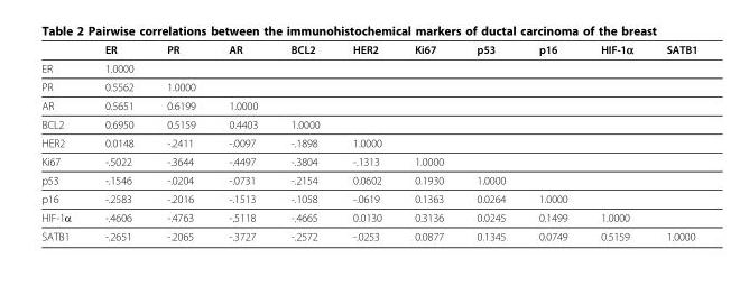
<table><thead><tr><td></td><td>ER</td><td>PR</td><td>AR</td><td>BCL2</td><td>HER2</td><td>Ki67</td><td>p53</td><td>p16</td><td>HIF-1α</td><td>SATB1</td></tr></thead><tbody><tr><td>ER</td><td>1.0000</td><td></td><td></td><td></td><td></td><td></td><td></td><td></td><td></td><td></td></tr><tr><td>PR</td><td>0.5562</td><td>1.0000</td><td></td><td></td><td></td><td></td><td></td><td></td><td></td><td></td></tr><tr><td>AR</td><td>0.5651</td><td>0.6199</td><td>1.0000</td><td></td><td></td><td></td><td></td><td></td><td></td><td></td></tr><tr><td>BCL2</td><td>0.6950</td><td>0.5159</td><td>0.4403</td><td>1.0000</td><td></td><td></td><td></td><td></td><td></td><td></td></tr><tr><td>HER2</td><td>0.0148</td><td>-.2411</td><td>-.0097</td><td>-.1898</td><td>1.0000</td><td></td><td></td><td></td><td></td><td></td></tr><tr><td>Ki67</td><td>-.5022</td><td>-.3644</td><td>-.4497</td><td>-.3804</td><td>-.1313</td><td>1.0000</td><td></td><td></td><td></td><td></td></tr><tr><td>p53</td><td>-.1546</td><td>-.0204</td><td>-.0731</td><td>-.2154</td><td>0.0602</td><td>0.1930</td><td>1.0000</td><td></td><td></td><td></td></tr><tr><td>p16</td><td>-.2583</td><td>-.2016</td><td>-.1513</td><td>-.1058</td><td>-.0619</td><td>0.1363</td><td>0.0264</td><td>1.0000</td><td></td><td></td></tr><tr><td>HIF-1α</td><td>-.4606</td><td>-.4763</td><td>-.5118</td><td>-.4665</td><td>0.0130</td><td>0.3136</td><td>0.0245</td><td>0.1499</td><td>1.0000</td><td></td></tr><tr><td>SATB1</td><td>-.2651</td><td>-.2065</td><td>-.3727</td><td>-.2572</td><td>-.0253</td><td>0.0877</td><td>0.1345</td><td>0.0749</td><td>0.5159</td><td>1.0000</td></tr></tbody></table>